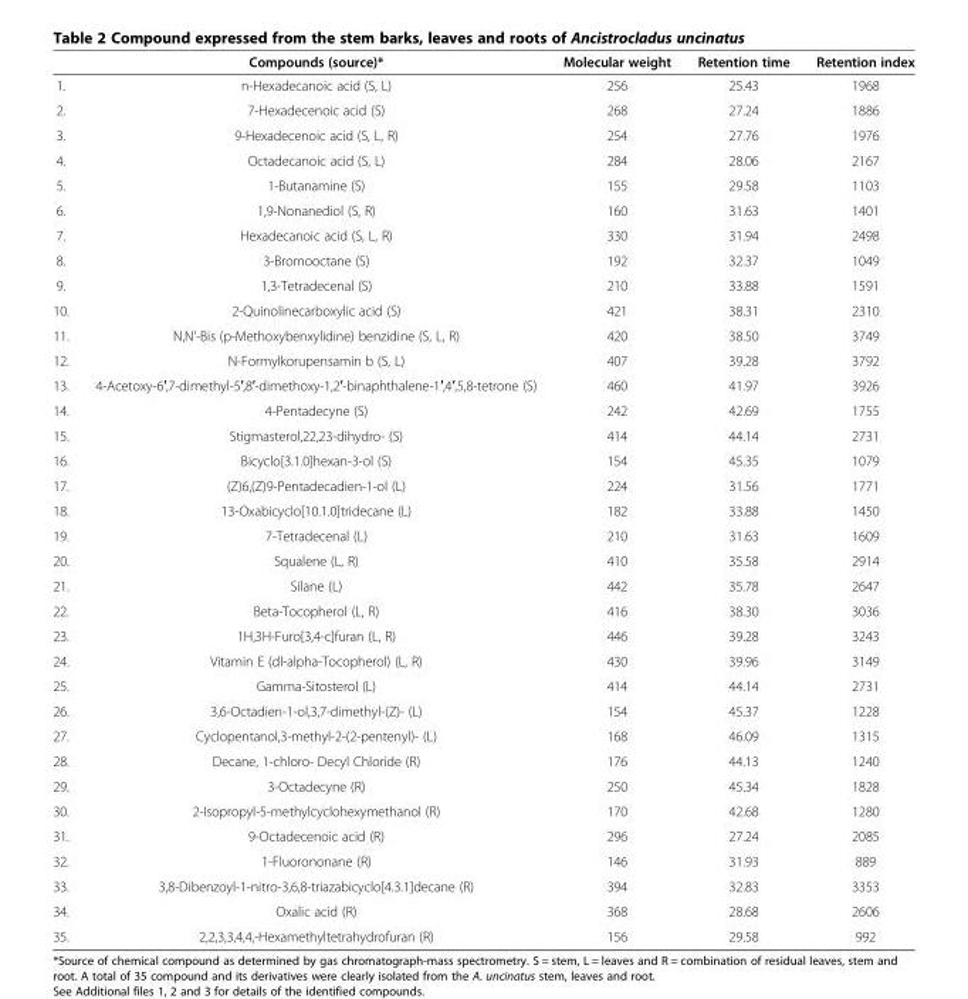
<table><thead><tr><td></td><td>Compounds (source)*</td><td>Molecular weight</td><td>Retention time</td><td>Retention index</td></tr></thead><tbody><tr><td>1.</td><td>n-Hexadecanoic acid (S, L)</td><td>256</td><td>25.43</td><td>1968</td></tr><tr><td>2.</td><td>7-Hexadecenoic acid (S)</td><td>268</td><td>27.24</td><td>1886</td></tr><tr><td>3.</td><td>9-Hexadecenoic acid (S, L, R)</td><td>254</td><td>27.76</td><td>1976</td></tr><tr><td>4.</td><td>Octadecanoic acid (S, L)</td><td>284</td><td>28.06</td><td>2167</td></tr><tr><td>5.</td><td>1-Butanamine (S)</td><td>155</td><td>29.58</td><td>1103</td></tr><tr><td>6.</td><td>1,9-Nonanediol (S, R)</td><td>160</td><td>31.63</td><td>1401</td></tr><tr><td>7.</td><td>Hexadecanoic acid (S, L, R)</td><td>330</td><td>31.94</td><td>2498</td></tr><tr><td>8.</td><td>3-Bromooctane (S)</td><td>192</td><td>32.37</td><td>1049</td></tr><tr><td>9.</td><td>1,3-Tetradecenal (S)</td><td>210</td><td>33.88</td><td>1591</td></tr><tr><td>10.</td><td>2-Quinolinecarboxylic acid (S)</td><td>421</td><td>38.31</td><td>2310</td></tr><tr><td>11.</td><td>N,N’-Bis (p-Methoxybenxylidine) benzidine (S, L, R)</td><td>420</td><td>38.50</td><td>3749</td></tr><tr><td>12.</td><td>N-Formylkorupensamin b (S, L)</td><td>407</td><td>39.28</td><td>3792</td></tr><tr><td>13.</td><td>4-Acetoxy-6′,7-dimethyl-5′,8′-dimethoxy-1,2′-binaphthalene-1′,4′,5,8-tetrone (S)</td><td>460</td><td>41.97</td><td>3926</td></tr><tr><td>14.</td><td>4-Pentadecyne (S)</td><td>242</td><td>42.69</td><td>1755</td></tr><tr><td>15.</td><td>Stigmasterol,22,23-dihydro- (S)</td><td>414</td><td>44.14</td><td>2731</td></tr><tr><td>16.</td><td>Bicyclo[3.1.0]hexan-3-ol (S)</td><td>154</td><td>45.35</td><td>1079</td></tr><tr><td>17.</td><td>(Z)6,(Z)9-Pentadecadien-1-ol (L)</td><td>224</td><td>31.56</td><td>1771</td></tr><tr><td>18.</td><td>13-Oxabicyclo[10.1.0]tridecane (L)</td><td>182</td><td>33.88</td><td>1450</td></tr><tr><td>19.</td><td>7-Tetradecenal (L)</td><td>210</td><td>31.63</td><td>1609</td></tr><tr><td>20.</td><td>Squalene (L, R)</td><td>410</td><td>35.58</td><td>2914</td></tr><tr><td>21.</td><td>Silane (L)</td><td>442</td><td>35.78</td><td>2647</td></tr><tr><td>22.</td><td>Beta-Tocopherol (L, R)</td><td>416</td><td>38.30</td><td>3036</td></tr><tr><td>23.</td><td>1H,3H-Furo[3,4-c]furan (L, R)</td><td>446</td><td>39.28</td><td>3243</td></tr><tr><td>24.</td><td>Vitamin E (dl-alpha-Tocopherol) (L, R)</td><td>430</td><td>39.96</td><td>3149</td></tr><tr><td>25.</td><td>Gamma-Sitosterol (L)</td><td>414</td><td>44.14</td><td>2731</td></tr><tr><td>26.</td><td>3,6-Octadien-1-ol,3,7-dimethyl-(Z)- (L)</td><td>154</td><td>45.37</td><td>1228</td></tr><tr><td>27.</td><td>Cyclopentanol,3-methyl-2-(2-pentenyl)- (L)</td><td>168</td><td>46.09</td><td>1315</td></tr><tr><td>28.</td><td>Decane, 1-chloro- Decyl Chloride (R)</td><td>176</td><td>44.13</td><td>1240</td></tr><tr><td>29.</td><td>3-Octadecyne (R)</td><td>250</td><td>45.34</td><td>1828</td></tr><tr><td>30.</td><td>2-Isopropyl-5-methylcyclohexymethanol (R)</td><td>170</td><td>42.68</td><td>1280</td></tr><tr><td>31.</td><td>9-Octadecenoic acid (R)</td><td>296</td><td>27.24</td><td>2085</td></tr><tr><td>32.</td><td>1-Fluorononane (R)</td><td>146</td><td>31.93</td><td>889</td></tr><tr><td>33.</td><td>3,8-Dibenzoyl-1-nitro-3,6,8-triazabicyclo[4.3.1]decane (R)</td><td>394</td><td>32.83</td><td>3353</td></tr><tr><td>34.</td><td>Oxalic acid (R)</td><td>368</td><td>28.68</td><td>2606</td></tr><tr><td>35.</td><td>2,2,3,3,4,4,-Hexamethyltetrahydrofuran (R)</td><td>156</td><td>29.58</td><td>992</td></tr></tbody></table>